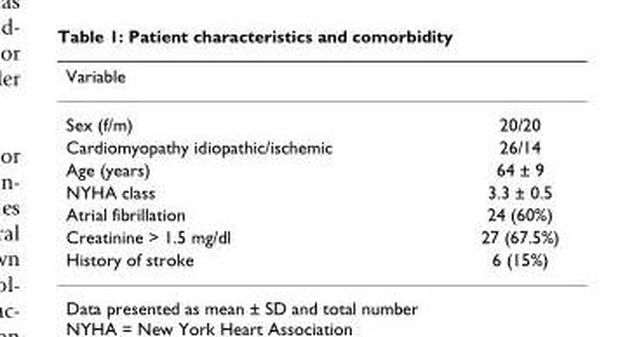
<table><thead><tr><td>Variable</td><td></td></tr></thead><tbody><tr><td>Sex (f/m)</td><td>20/20</td></tr><tr><td>Cardiomyopathy idiopathic/ischemic</td><td>26/14</td></tr><tr><td>Age (years)</td><td>64 ± 9</td></tr><tr><td>NYHA class</td><td>3.3 ± 0.5</td></tr><tr><td>Atrial fibrillation</td><td>24 (60%)</td></tr><tr><td>Creatinine &gt; 1.5 mg/dl</td><td>27 (67.5%)</td></tr><tr><td>History of stroke</td><td>6 (15%)</td></tr></tbody></table>